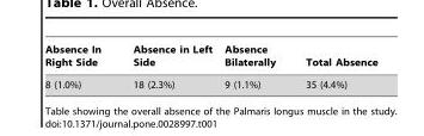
<table><thead><tr><td>Absence In Right Side</td><td>Absence in Left Side</td><td>Absence Bilaterally</td><td>Total Absence</td></tr></thead><tbody><tr><td>8 (1.0%)</td><td>18 (2.3%)</td><td>9 (1.1%)</td><td>35 (4.4%)</td></tr></tbody></table>